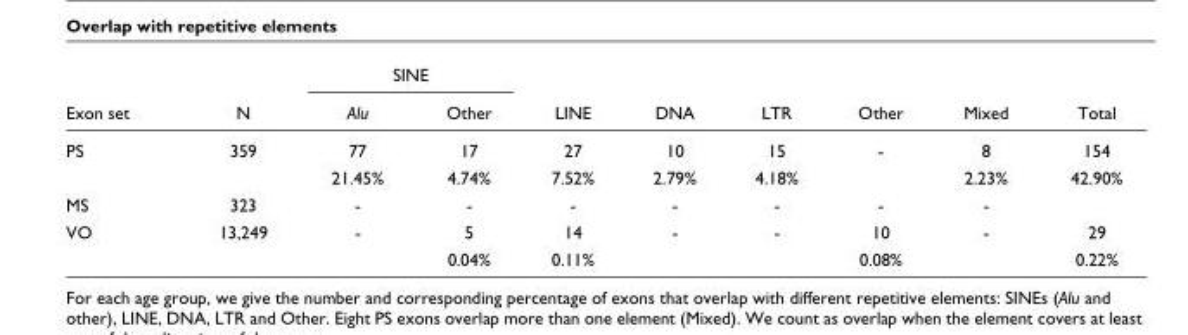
<table><thead><tr><td rowspan="2">Exon set</td><td rowspan="2">N</td><td colspan="2">SINE</td><td rowspan="2">LINE</td><td rowspan="2">DNA</td><td rowspan="2">LTR</td><td rowspan="2">Other</td><td rowspan="2">Mixed</td><td rowspan="2">Total</td></tr><tr><td>Alu</td><td>Other</td></tr></thead><tbody><tr><td rowspan="2">PS</td><td>359</td><td>77</td><td>17</td><td>27</td><td>10</td><td>15</td><td>-</td><td>8</td><td>154</td></tr><tr><td></td><td>21.45%</td><td>4.74%</td><td>7.52%</td><td>2.79%</td><td>4.18%</td><td></td><td>2.23%</td><td>42.90%</td></tr><tr><td>MS</td><td>323</td><td>-</td><td>-</td><td>-</td><td>-</td><td>-</td><td>-</td><td>-</td><td></td></tr><tr><td rowspan="2">VO</td><td>13,249</td><td>-</td><td>5</td><td>14</td><td>-</td><td>-</td><td>10</td><td>-</td><td>29</td></tr><tr><td></td><td></td><td>0.04%</td><td>0.11%</td><td></td><td></td><td>0.08%</td><td></td><td>0.22%</td></tr></tbody></table>